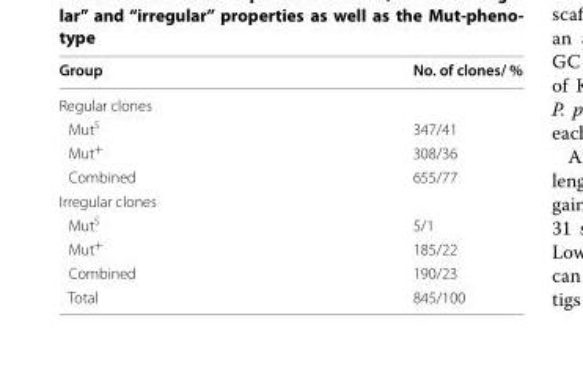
<table><thead><tr><td>Group</td><td>No. of clones/ %</td></tr></thead><tbody><tr><td colspan="2">Regular clones</td></tr><tr><td>Mut<sup>S</sup></td><td>347/41</td></tr><tr><td>Mut<sup>+</sup></td><td>308/36</td></tr><tr><td>Combined</td><td>655/77</td></tr><tr><td colspan="2">Irregular clones</td></tr><tr><td>Mut<sup>S</sup></td><td>5/1</td></tr><tr><td>Mut<sup>+</sup></td><td>185/22</td></tr><tr><td>Combined</td><td>190/23</td></tr><tr><td>Total</td><td>845/100</td></tr></tbody></table>